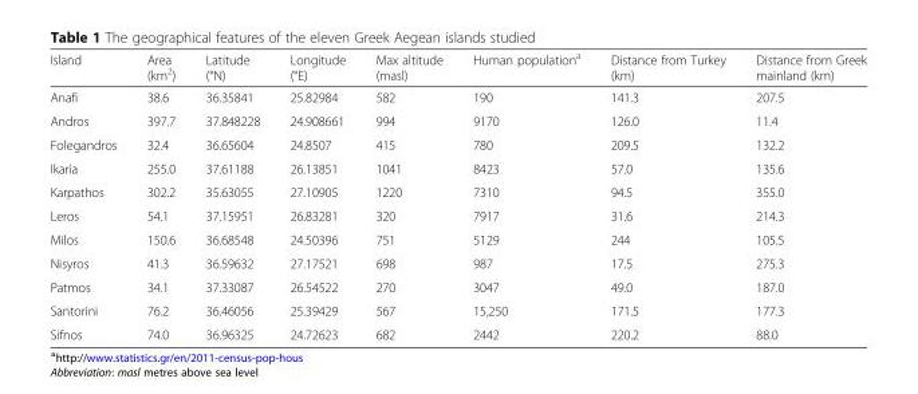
<table><thead><tr><td>Island</td><td>Area (km<sup>2</sup>)</td><td>Latitude (°N)</td><td>Longitude (°E)</td><td>Max altitude (masl)</td><td>Human population<sup>a</sup></td><td>Distance from Turkey (km)</td><td>Distance from Greek mainland (km)</td></tr></thead><tbody><tr><td>Anafi</td><td>38.6</td><td>36.35841</td><td>25.82984</td><td>582</td><td>190</td><td>141.3</td><td>207.5</td></tr><tr><td>Andros</td><td>397.7</td><td>37.848228</td><td>24.908661</td><td>994</td><td>9170</td><td>126.0</td><td>11.4</td></tr><tr><td>Folegandros</td><td>32.4</td><td>36.65604</td><td>24.8507</td><td>415</td><td>780</td><td>209.5</td><td>132.2</td></tr><tr><td>Ikaria</td><td>255.0</td><td>37.61188</td><td>26.13851</td><td>1041</td><td>8423</td><td>57.0</td><td>135.6</td></tr><tr><td>Karpathos</td><td>302.2</td><td>35.63055</td><td>27.10905</td><td>1220</td><td>7310</td><td>94.5</td><td>355.0</td></tr><tr><td>Leros</td><td>54.1</td><td>37.15951</td><td>26.83281</td><td>320</td><td>7917</td><td>31.6</td><td>214.3</td></tr><tr><td>Milos</td><td>150.6</td><td>36.68548</td><td>24.50396</td><td>751</td><td>5129</td><td>244</td><td>105.5</td></tr><tr><td>Nisyros</td><td>41.3</td><td>36.59632</td><td>27.17521</td><td>698</td><td>987</td><td>17.5</td><td>275.3</td></tr><tr><td>Patmos</td><td>34.1</td><td>37.33087</td><td>26.54522</td><td>270</td><td>3047</td><td>49.0</td><td>187.0</td></tr><tr><td>Santorini</td><td>76.2</td><td>36.46056</td><td>25.39429</td><td>567</td><td>15,250</td><td>171.5</td><td>177.3</td></tr><tr><td>Sifnos</td><td>74.0</td><td>36.96325</td><td>24.72623</td><td>682</td><td>2442</td><td>220.2</td><td>88.0</td></tr></tbody></table>